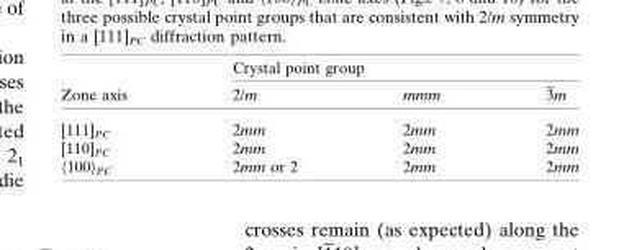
<table><thead><tr><td rowspan="2">Zone axis</td><td colspan="3">Crystal point group</td></tr><tr><td>2/m</td><td>mmm</td><td>3m</td></tr></thead><tbody><tr><td>[111]<sub>PC</sub></td><td>2mm</td><td>2mm</td><td>2mm</td></tr><tr><td>[110]<sub>PC</sub></td><td>2mm</td><td>2mm</td><td>2mm</td></tr><tr><td>〈100〉<sub>PC</sub></td><td>2mm or 2</td><td>2mm</td><td>2mm</td></tr></tbody></table>